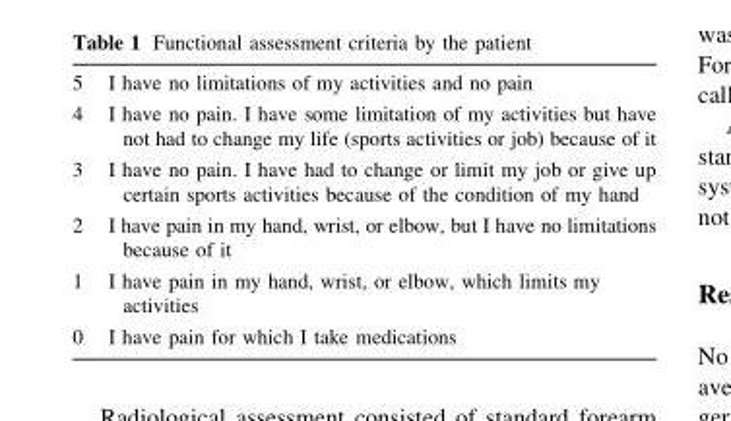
<table><tbody><tr><td>5</td><td>I have no limitations of my activities and no pain</td></tr><tr><td>4</td><td>I have no pain. I have some limitation of my activities but have not had to change my life (sports activities or job) because of it</td></tr><tr><td>3</td><td>I have no pain. I have had to change or limit my job or give up certain sports activities because of the condition of my hand</td></tr><tr><td>2</td><td>I have pain in my hand, wrist, or elbow, but I have no limitations because of it</td></tr><tr><td>1</td><td>I have pain in my hand, wrist, or elbow, which limits my activities</td></tr><tr><td>0</td><td>I have pain for which I take medications</td></tr></tbody></table>